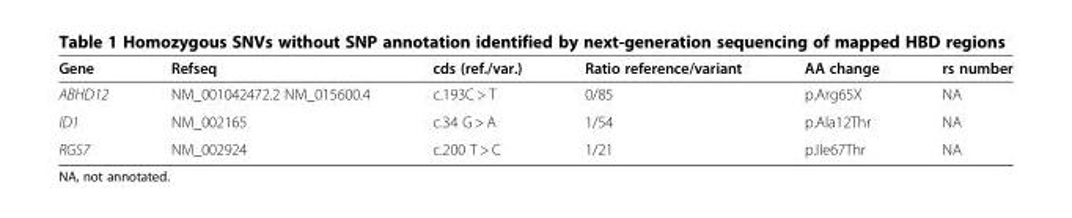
<table><thead><tr><td>Gene</td><td>Refseq</td><td>cds (ref./var.)</td><td>Ratio reference/variant</td><td>AA change</td><td>rs number</td></tr></thead><tbody><tr><td>ABHD12</td><td>NM_001042472.2 NM_015600.4</td><td>c.193C &gt; T</td><td>0/85</td><td>p.Arg65X</td><td>NA</td></tr><tr><td>ID1</td><td>NM_002165</td><td>c.34 G &gt; A</td><td>1/54</td><td>p.Ala12Thr</td><td>NA</td></tr><tr><td>RGS7</td><td>NM_002924</td><td>c.200 T &gt; C</td><td>1/21</td><td>p.Ile67Thr</td><td>NA</td></tr></tbody></table>